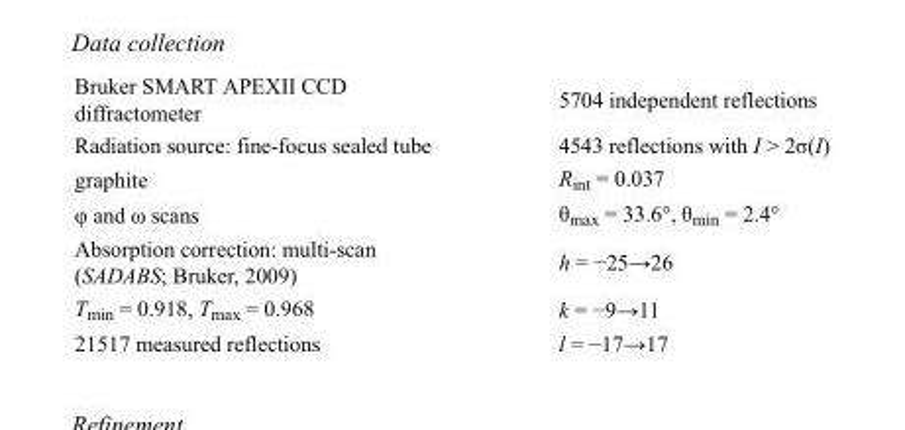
<table><tbody><tr><td>Bruker SMART APEXII CCD diffractometer</td><td>5704 independent reflections</td></tr><tr><td>Radiation source: fine-focus sealed tube</td><td>4543 reflections with I &gt; 2σ(I)</td></tr><tr><td>graphite</td><td>R<sub>int</sub> = 0.037</td></tr><tr><td>φ and ω scans</td><td>θ<sub>max</sub> = 33.6°, θ<sub>min</sub> = 2.4°</td></tr><tr><td>Absorption correction: multi-scan (SADABS; Bruker, 2009)</td><td>h = −25→26</td></tr><tr><td>T<sub>min</sub> = 0.918, T<sub>max</sub> = 0.968</td><td>k = −9→11</td></tr><tr><td>21517 measured reflections</td><td>l = −17→17</td></tr></tbody></table>